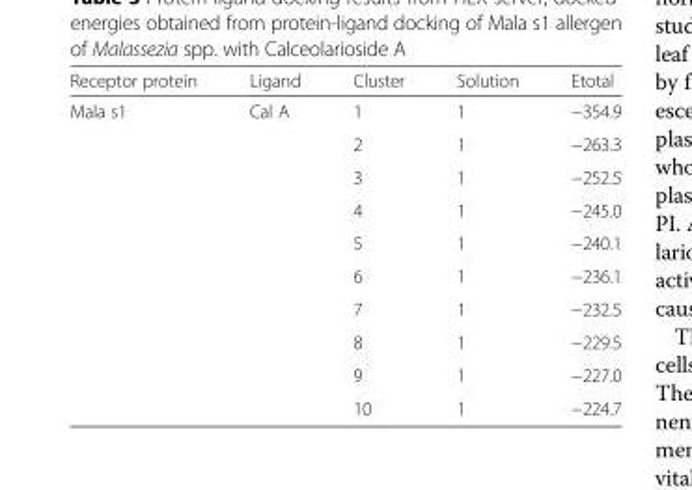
<table><thead><tr><td>Receptor protein</td><td>Ligand</td><td>Cluster</td><td>Solution</td><td>Etotal</td></tr></thead><tbody><tr><td rowspan="10">Mala s1</td><td>Cal A</td><td>1</td><td>1</td><td>−354.9</td></tr><tr><td></td><td>2</td><td>1</td><td>−263.3</td></tr><tr><td></td><td>3</td><td>1</td><td>−252.5</td></tr><tr><td></td><td>4</td><td>1</td><td>−245.0</td></tr><tr><td></td><td>5</td><td>1</td><td>−240.1</td></tr><tr><td></td><td>6</td><td>1</td><td>−236.1</td></tr><tr><td></td><td>7</td><td>1</td><td>−232.5</td></tr><tr><td></td><td>8</td><td>1</td><td>−229.5</td></tr><tr><td></td><td>9</td><td>1</td><td>−227.0</td></tr><tr><td></td><td>10</td><td>1</td><td>−224.7</td></tr></tbody></table>